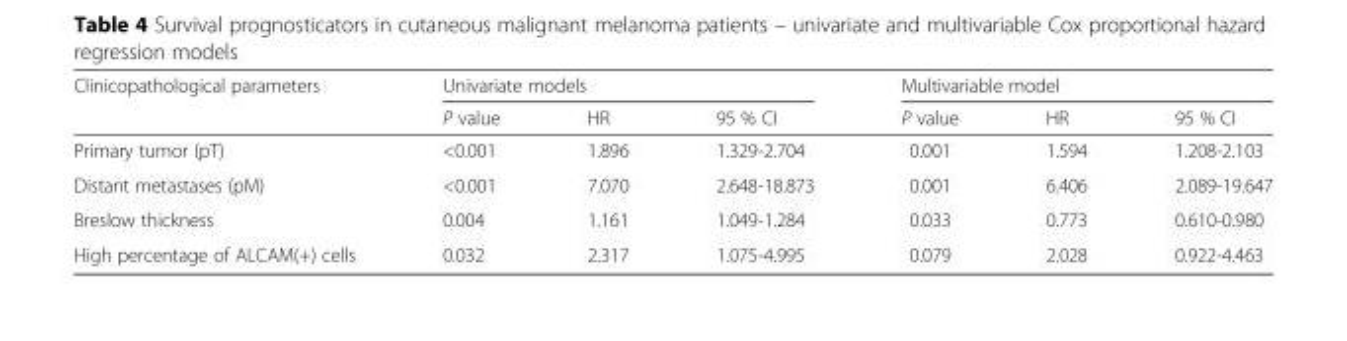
<table><thead><tr><td rowspan="2">Clinicopathological parameters</td><td colspan="3">Univariate models</td><td colspan="3">Multivariable model</td></tr><tr><td>P value</td><td>HR</td><td>95 % CI</td><td>P value</td><td>HR</td><td>95 % CI</td></tr></thead><tbody><tr><td>Primary tumor (pT)</td><td>&lt;0.001</td><td>1.896</td><td>1.329-2.704</td><td>0.001</td><td>1.594</td><td>1.208-2.103</td></tr><tr><td>Distant metastases (pM)</td><td>&lt;0.001</td><td>7.070</td><td>2.648-18.873</td><td>0.001</td><td>6.406</td><td>2.089-19.647</td></tr><tr><td>Breslow thickness</td><td>0.004</td><td>1.161</td><td>1.049-1.284</td><td>0.033</td><td>0.773</td><td>0.610-0.980</td></tr><tr><td>High percentage of ALCAM(+) cells</td><td>0.032</td><td>2.317</td><td>1.075-4.995</td><td>0.079</td><td>2.028</td><td>0.922-4.463</td></tr></tbody></table>